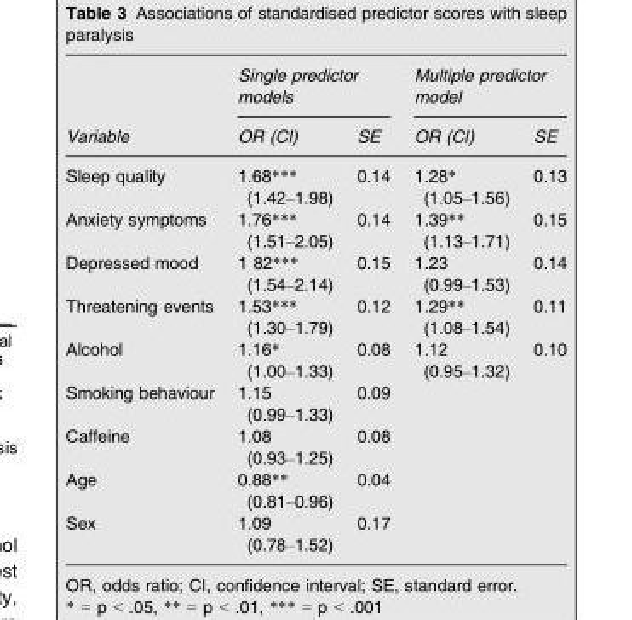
<table><thead><tr><td rowspan="2">Variable</td><td colspan="2">Single predictor models</td><td colspan="2">Multiple predictor model</td></tr><tr><td>OR (CI)</td><td>SE</td><td>OR (CI)</td><td>SE</td></tr></thead><tbody><tr><td>Sleep quality</td><td>1.68*** (1.42–1.98)</td><td>0.14</td><td>1.28* (1.05–1.56)</td><td>0.13</td></tr><tr><td>Anxiety symptoms</td><td>1.76*** (1.51–2.05)</td><td>0.14</td><td>1.39** (1.13–1.71)</td><td>0.15</td></tr><tr><td>Depressed mood</td><td>1 82*** (1.54–2.14)</td><td>0.15</td><td>1.23 (0.99–1.53)</td><td>0.14</td></tr><tr><td>Threatening events</td><td>1.53*** (1.30–1.79)</td><td>0.12</td><td>1.29** (1.08–1.54)</td><td>0.11</td></tr><tr><td>Alcohol</td><td>1.16* (1.00–1.33)</td><td>0.08</td><td>1.12 (0.95–1.32)</td><td>0.10</td></tr><tr><td>Smoking behaviour</td><td>1.15 (0.99–1.33)</td><td>0.09</td><td></td><td></td></tr><tr><td>Caffeine</td><td>1.08 (0.93–1.25)</td><td>0.08</td><td></td><td></td></tr><tr><td>Age</td><td>0.88** (0.81–0.96)</td><td>0.04</td><td></td><td></td></tr><tr><td>Sex</td><td>1.09 (0.78–1.52)</td><td>0.17</td><td></td><td></td></tr></tbody></table>